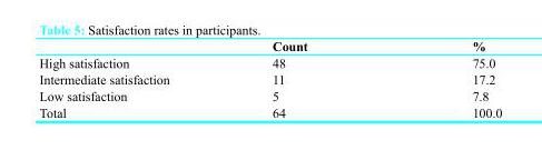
<table><thead><tr><td></td><td>Count</td><td>%</td></tr></thead><tbody><tr><td>High satisfaction</td><td>48</td><td>75.0</td></tr><tr><td>Intermediate satisfaction</td><td>11</td><td>17.2</td></tr><tr><td>Low satisfaction</td><td>5</td><td>7.8</td></tr><tr><td>Total</td><td>64</td><td>100.0</td></tr></tbody></table>